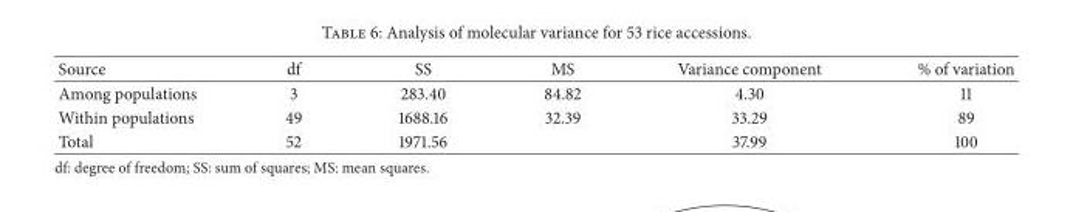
<table><thead><tr><td>Source</td><td>df</td><td>SS</td><td>MS</td><td>Variance component</td><td>% of variation</td></tr></thead><tbody><tr><td>Among populations</td><td>3</td><td>283.40</td><td>84.82</td><td>4.30</td><td>11</td></tr><tr><td>Within populations</td><td>49</td><td>1688.16</td><td>32.39</td><td>33.29</td><td>89</td></tr><tr><td>Total</td><td>52</td><td>1971.56</td><td></td><td>37.99</td><td>100</td></tr></tbody></table>